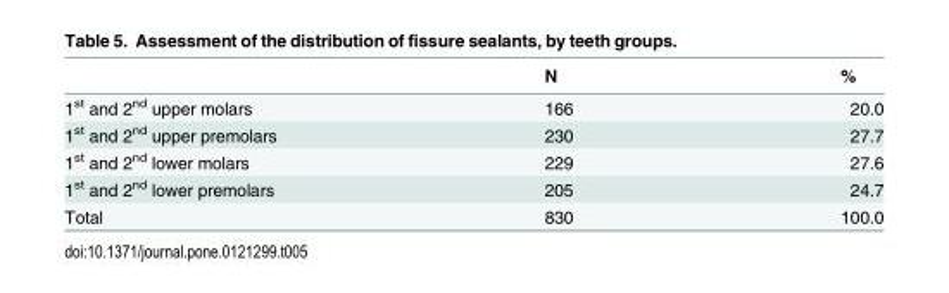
<table><thead><tr><td></td><td>N</td><td>%</td></tr></thead><tbody><tr><td>1<sup>st</sup> and 2<sup>nd</sup> upper molars</td><td>166</td><td>20.0</td></tr><tr><td>1<sup>st</sup> and 2<sup>nd</sup> upper premolars</td><td>230</td><td>27.7</td></tr><tr><td>1<sup>st</sup> and 2<sup>nd</sup> lower molars</td><td>229</td><td>27.6</td></tr><tr><td>1<sup>st</sup> and 2<sup>nd</sup> lower premolars</td><td>205</td><td>24.7</td></tr><tr><td>Total</td><td>830</td><td>100.0</td></tr></tbody></table>